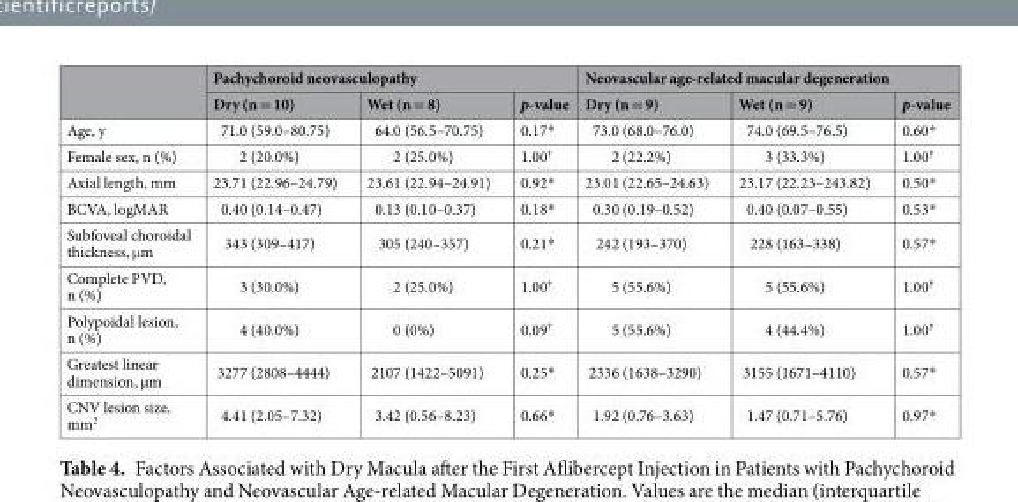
<table><thead><tr><td rowspan="2"></td><td colspan="3">Pachychoroid neovasculopathy</td><td colspan="3">Neovascular age-related macular degeneration</td></tr><tr><td>Dry (n = 10)</td><td>Wet (n = 8)</td><td>p-value</td><td>Dry (n = 9)</td><td>Wet (n = 9)</td><td>p-value</td></tr></thead><tbody><tr><td>Age, y</td><td>71.0 (59.0–80.75)</td><td>64.0 (56.5–70.75)</td><td>0.17*</td><td>73.0 (68.0–76.0)</td><td>74.0 (69.5–76.5)</td><td>0.60*</td></tr><tr><td>Female sex, n (%)</td><td>2 (20.0%)</td><td>2 (25.0%)</td><td>1.00<sup>†</sup></td><td>2 (22.2%)</td><td>3 (33.3%)</td><td>1.00<sup>†</sup></td></tr><tr><td>Axial length, mm</td><td>23.71 (22.96–24.79)</td><td>23.61 (22.94–24.91)</td><td>0.92*</td><td>23.01 (22.65–24.63)</td><td>23.17 (22.23–243.82)</td><td>0.50*</td></tr><tr><td>BCVA, logMAR</td><td>0.40 (0.14–0.47)</td><td>0.13 (0.10–0.37)</td><td>0.18*</td><td>0.30 (0.19–0.52)</td><td>0.40 (0.07–0.55)</td><td>0.53*</td></tr><tr><td>Subfoveal choroidal thickness, μm</td><td>343 (309–417)</td><td>305 (240–357)</td><td>0.21*</td><td>242 (193–370)</td><td>228 (163–338)</td><td>0.57*</td></tr><tr><td>Complete PVD, n (%)</td><td>3 (30.0%)</td><td>2 (25.0%)</td><td>1.00<sup>†</sup></td><td>5 (55.6%)</td><td>5 (55.6%)</td><td>1.00<sup>†</sup></td></tr><tr><td>Polypoidal lesion, n (%)</td><td>4 (40.0%)</td><td>0 (0%)</td><td>0.09<sup>†</sup></td><td>5 (55.6%)</td><td>4 (44.4%)</td><td>1.00<sup>†</sup></td></tr><tr><td>Greatest linear dimension, µm</td><td>3277 (2808–4444)</td><td>2107 (1422–5091)</td><td>0.25*</td><td>2336 (1638–3290)</td><td>3155 (1671–4110)</td><td>0.57*</td></tr><tr><td>CNV lesion size, mm<sup>2</sup></td><td>4.41 (2.05–7.32)</td><td>3.42 (0.56–8.23)</td><td>0.66*</td><td>1.92 (0.76–3.63)</td><td>1.47 (0.71–5.76)</td><td>0.97*</td></tr></tbody></table>